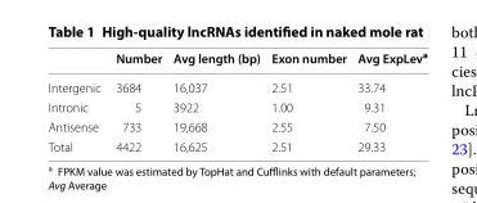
<table><thead><tr><td></td><td>Number</td><td>Avg length (bp)</td><td>Exon number</td><td>Avg ExpLev<sup>a</sup></td></tr></thead><tbody><tr><td>Intergenic</td><td>3684</td><td>16,037</td><td>2.51</td><td>33.74</td></tr><tr><td>Intronic</td><td>5</td><td>3922</td><td>1.00</td><td>9.31</td></tr><tr><td>Antisense</td><td>733</td><td>19,668</td><td>2.55</td><td>7.50</td></tr><tr><td>Total</td><td>4422</td><td>16,625</td><td>2.51</td><td>29.33</td></tr></tbody></table>